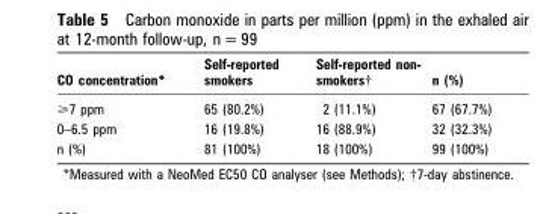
<table><thead><tr><td>CO concentration*</td><td>Self-reported smokers</td><td>Self-reported non- smokers†</td><td>n (%)</td></tr></thead><tbody><tr><td>&gt;7 ppm</td><td>65 (80.2%)</td><td>2 (11.1%)</td><td>67 (67.7%)</td></tr><tr><td>0–6.5 ppm</td><td>16 (19.8%)</td><td>16 (88.9%)</td><td>32 (32.3%)</td></tr><tr><td>n (%)</td><td>81 (100%)</td><td>18 (100%)</td><td>99 (100%)</td></tr></tbody></table>